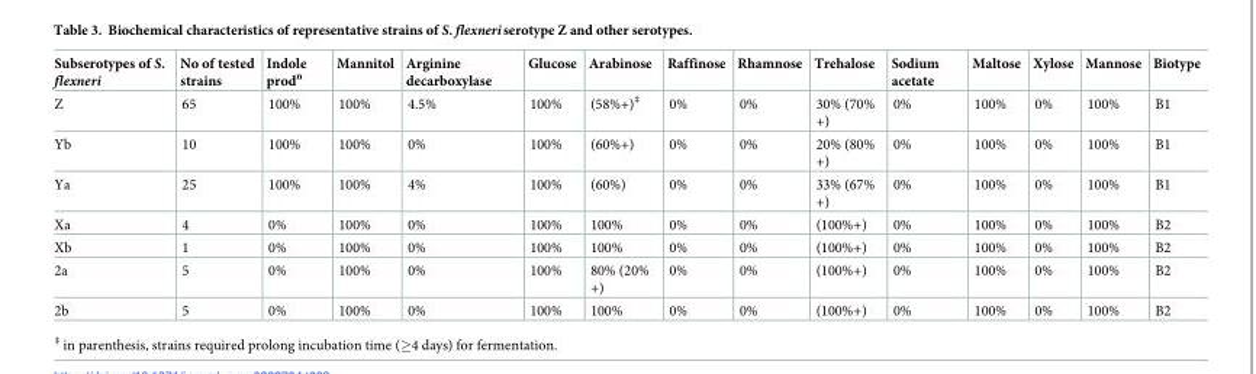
<table><thead><tr><td>Subserotypes of S. flexneri</td><td>No of tested strains</td><td>Indole prod<sup>n</sup></td><td>Mannitol</td><td>Arginine decarboxylase</td><td>Glucose</td><td>Arabinose</td><td>Raffinose</td><td>Rhamnose</td><td>Trehalose</td><td>Sodium acetate</td><td>Maltose</td><td>Xylose</td><td>Mannose</td><td>Biotype</td></tr></thead><tbody><tr><td>Z</td><td>65</td><td>100%</td><td>100%</td><td>4.5%</td><td>100%</td><td>(58%+)‡</td><td>0%</td><td>0%</td><td>30% (70% +)</td><td>0%</td><td>100%</td><td>0%</td><td>100%</td><td>B1</td></tr><tr><td>Yb</td><td>10</td><td>100%</td><td>100%</td><td>0%</td><td>100%</td><td>(60%+)</td><td>0%</td><td>0%</td><td>20% (80% +)</td><td>0%</td><td>100%</td><td>0%</td><td>100%</td><td>B1</td></tr><tr><td>Ya</td><td>25</td><td>100%</td><td>100%</td><td>4%</td><td>100%</td><td>(60%)</td><td>0%</td><td>0%</td><td>33% (67% +)</td><td>0%</td><td>100%</td><td>0%</td><td>100%</td><td>B1</td></tr><tr><td>Xa</td><td>4</td><td>0%</td><td>100%</td><td>0%</td><td>100%</td><td>100%</td><td>0%</td><td>0%</td><td>(100%+)</td><td>0%</td><td>100%</td><td>0%</td><td>100%</td><td>B2</td></tr><tr><td>Xb</td><td>1</td><td>0%</td><td>100%</td><td>0%</td><td>100%</td><td>100%</td><td>0%</td><td>0%</td><td>(100%+)</td><td>0%</td><td>100%</td><td>0%</td><td>100%</td><td>B2</td></tr><tr><td>2a</td><td>5</td><td>0%</td><td>100%</td><td>0%</td><td>100%</td><td>80% (20% +)</td><td>0%</td><td>0%</td><td>(100%+)</td><td>0%</td><td>100%</td><td>0%</td><td>100%</td><td>B2</td></tr><tr><td>2b</td><td>5</td><td>0%</td><td>100%</td><td>0%</td><td>100%</td><td>100%</td><td>0%</td><td>0%</td><td>(100%+)</td><td>0%</td><td>100%</td><td>0%</td><td>100%</td><td>B2</td></tr></tbody></table>